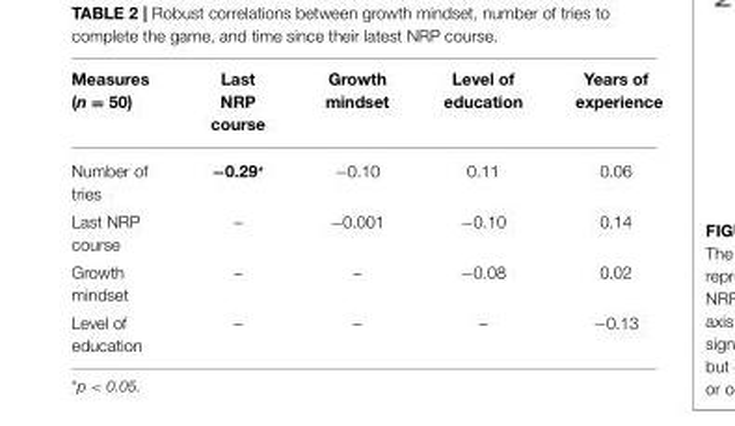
<table><thead><tr><td>Measures (n = 50)</td><td>Last NRP course</td><td>Growth mindset</td><td>Level of education</td><td>Years of experience</td></tr></thead><tbody><tr><td>Number of tries</td><td>−0.29*</td><td>−0.10</td><td>0.11</td><td>0.06</td></tr><tr><td>Last NRP course</td><td>–</td><td>−0.001</td><td>−0.10</td><td>0.14</td></tr><tr><td>Growth mindset</td><td>–</td><td>–</td><td>−0.08</td><td>0.02</td></tr><tr><td>Level of education</td><td>–</td><td>–</td><td>–</td><td>−0.13</td></tr></tbody></table>